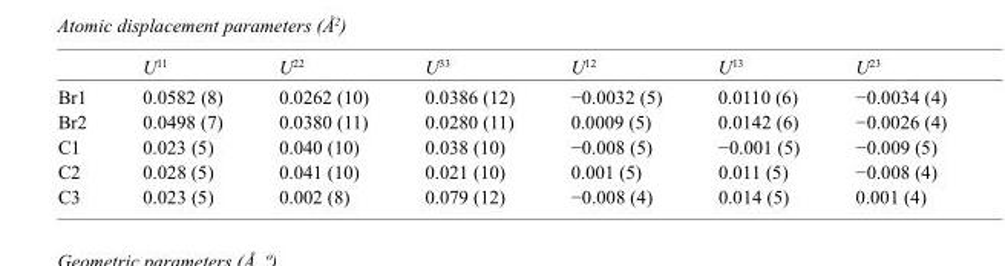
<table><thead><tr><td></td><td>U<sup>11</sup></td><td>U<sup>22</sup></td><td>U<sup>33</sup></td><td>U<sup>12</sup></td><td>U<sup>13</sup></td><td>U<sup>23</sup></td></tr></thead><tbody><tr><td>Br1</td><td>0.0582 (8)</td><td>0.0262 (10)</td><td>0.0386 (12)</td><td>−0.0032 (5)</td><td>0.0110 (6)</td><td>−0.0034 (4)</td></tr><tr><td>Br2</td><td>0.0498 (7)</td><td>0.0380 (11)</td><td>0.0280 (11)</td><td>0.0009 (5)</td><td>0.0142 (6)</td><td>−0.0026 (4)</td></tr><tr><td>C1</td><td>0.023 (5)</td><td>0.040 (10)</td><td>0.038 (10)</td><td>−0.008 (5)</td><td>−0.001 (5)</td><td>−0.009 (5)</td></tr><tr><td>C2</td><td>0.028 (5)</td><td>0.041 (10)</td><td>0.021 (10)</td><td>0.001 (5)</td><td>0.011 (5)</td><td>−0.008 (4)</td></tr><tr><td>C3</td><td>0.023 (5)</td><td>0.002 (8)</td><td>0.079 (12)</td><td>−0.008 (4)</td><td>0.014 (5)</td><td>0.001 (4)</td></tr></tbody></table>